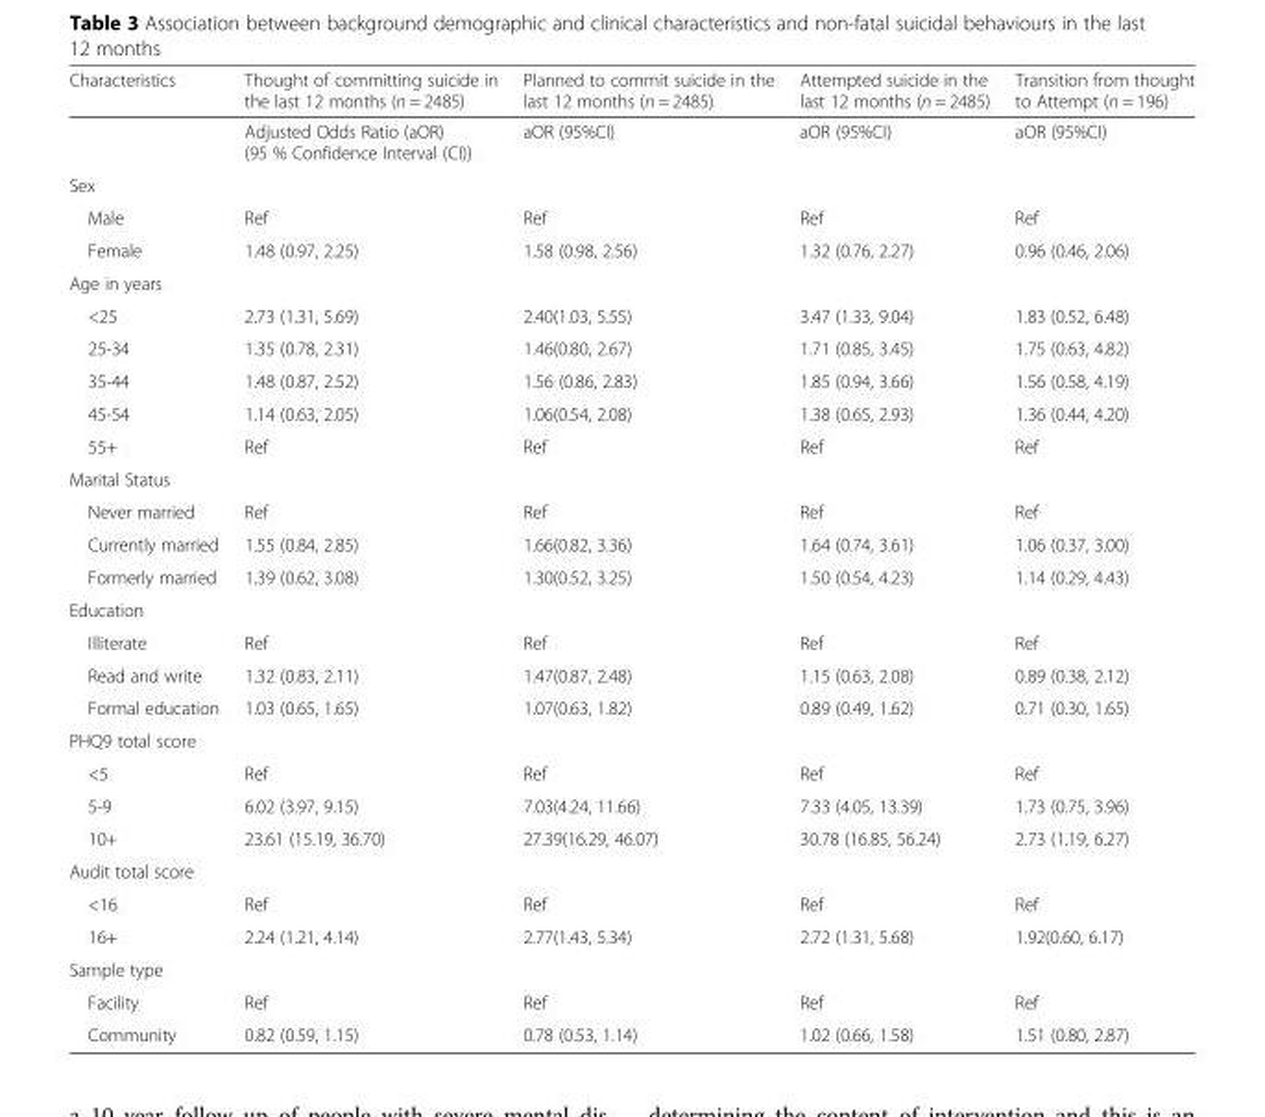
<table><thead><tr><td>Characteristics</td><td>Thought of committing suicide in the last 12 months (n = 2485)</td><td>Planned to commit suicide in the last 12 months (n = 2485)</td><td>Attempted suicide in the last 12 months (n = 2485)</td><td>Transition from thought to Attempt (n = 196)</td></tr></thead><tbody><tr><td></td><td>Adjusted Odds Ratio (aOR) (95 % Confidence Interval (CI))</td><td>aOR (95%CI)</td><td>aOR (95%CI)</td><td>aOR (95%CI)</td></tr><tr><td colspan="5">Sex</td></tr><tr><td>Male</td><td>Ref</td><td>Ref</td><td>Ref</td><td>Ref</td></tr><tr><td>Female</td><td>1.48 (0.97, 2.25)</td><td>1.58 (0.98, 2.56)</td><td>1.32 (0.76, 2.27)</td><td>0.96 (0.46, 2.06)</td></tr><tr><td colspan="5">Age in years</td></tr><tr><td>&lt;25</td><td>2.73 (1.31, 5.69)</td><td>2.40(1.03, 5.55)</td><td>3.47 (1.33, 9.04)</td><td>1.83 (0.52, 6.48)</td></tr><tr><td>25-34</td><td>1.35 (0.78, 2.31)</td><td>1.46(0.80, 2.67)</td><td>1.71 (0.85, 3.45)</td><td>1.75 (0.63, 4.82)</td></tr><tr><td>35-44</td><td>1.48 (0.87, 2.52)</td><td>1.56 (0.86, 2.83)</td><td>1.85 (0.94, 3.66)</td><td>1.56 (0.58, 4.19)</td></tr><tr><td>45-54</td><td>1.14 (0.63, 2.05)</td><td>1.06(0.54, 2.08)</td><td>1.38 (0.65, 2.93)</td><td>1.36 (0.44, 4.20)</td></tr><tr><td>55+</td><td>Ref</td><td>Ref</td><td>Ref</td><td>Ref</td></tr><tr><td colspan="5">Marital Status</td></tr><tr><td>Never married</td><td>Ref</td><td>Ref</td><td>Ref</td><td>Ref</td></tr><tr><td>Currently married</td><td>1.55 (0.84, 2.85)</td><td>1.66(0.82, 3.36)</td><td>1.64 (0.74, 3.61)</td><td>1.06 (0.37, 3.00)</td></tr><tr><td>Formerly married</td><td>1.39 (0.62, 3.08)</td><td>1.30(0.52, 3.25)</td><td>1.50 (0.54, 4.23)</td><td>1.14 (0.29, 4.43)</td></tr><tr><td colspan="5">Education</td></tr><tr><td>Illiterate</td><td>Ref</td><td>Ref</td><td>Ref</td><td>Ref</td></tr><tr><td>Read and write</td><td>1.32 (0.83, 2.11)</td><td>1.47(0.87, 2.48)</td><td>1.15 (0.63, 2.08)</td><td>0.89 (0.38, 2.12)</td></tr><tr><td>Formal education</td><td>1.03 (0.65, 1.65)</td><td>1.07(0.63, 1.82)</td><td>0.89 (0.49, 1.62)</td><td>0.71 (0.30, 1.65)</td></tr><tr><td colspan="5">PHQ9 total score</td></tr><tr><td>&lt;5</td><td>Ref</td><td>Ref</td><td>Ref</td><td>Ref</td></tr><tr><td>5-9</td><td>6.02 (3.97, 9.15)</td><td>7.03(4.24, 11.66)</td><td>7.33 (4.05, 13.39)</td><td>1.73 (0.75, 3.96)</td></tr><tr><td>10+</td><td>23.61 (15.19, 36.70)</td><td>27.39(16.29, 46.07)</td><td>30.78 (16.85, 56.24)</td><td>2.73 (1.19, 6.27)</td></tr><tr><td colspan="5">Audit total score</td></tr><tr><td>&lt;16</td><td>Ref</td><td>Ref</td><td>Ref</td><td>Ref</td></tr><tr><td>16+</td><td>2.24 (1.21, 4.14)</td><td>2.77(1.43, 5.34)</td><td>2.72 (1.31, 5.68)</td><td>1.92(0.60, 6.17)</td></tr><tr><td colspan="5">Sample type</td></tr><tr><td>Facility</td><td>Ref</td><td>Ref</td><td>Ref</td><td>Ref</td></tr><tr><td>Community</td><td>0.82 (0.59, 1.15)</td><td>0.78 (0.53, 1.14)</td><td>1.02 (0.66, 1.58)</td><td>1.51 (0.80, 2.87)</td></tr></tbody></table>